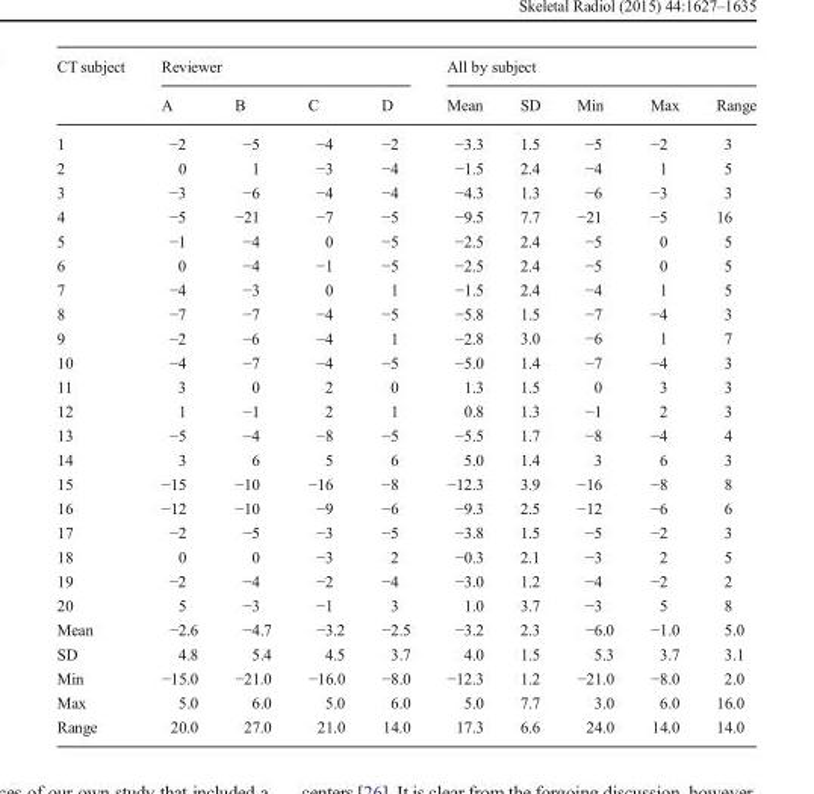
<table><thead><tr><td rowspan="2">CT subject</td><td colspan="4">Reviewer</td><td colspan="5">All by subject</td></tr><tr><td>A</td><td>B</td><td>C</td><td>D</td><td>Mean</td><td>SD</td><td>Min</td><td>Max</td><td>Range</td></tr></thead><tbody><tr><td>1</td><td>−2</td><td>−5</td><td>−4</td><td>−2</td><td>−3.3</td><td>1.5</td><td>−5</td><td>−2</td><td>3</td></tr><tr><td>2</td><td>0</td><td>1</td><td>−3</td><td>−4</td><td>−1.5</td><td>2.4</td><td>−4</td><td>1</td><td>5</td></tr><tr><td>3</td><td>−3</td><td>−6</td><td>−4</td><td>−4</td><td>−4.3</td><td>1.3</td><td>−6</td><td>−3</td><td>3</td></tr><tr><td>4</td><td>−5</td><td>−21</td><td>−7</td><td>−5</td><td>−9.5</td><td>7.7</td><td>−21</td><td>−5</td><td>16</td></tr><tr><td>5</td><td>−1</td><td>−4</td><td>0</td><td>−5</td><td>−2.5</td><td>2.4</td><td>−5</td><td>0</td><td>5</td></tr><tr><td>6</td><td>0</td><td>−4</td><td>−1</td><td>−5</td><td>−2.5</td><td>2.4</td><td>−5</td><td>0</td><td>5</td></tr><tr><td>7</td><td>−4</td><td>−3</td><td>0</td><td>1</td><td>−1.5</td><td>2.4</td><td>−4</td><td>1</td><td>5</td></tr><tr><td>8</td><td>−7</td><td>−7</td><td>−4</td><td>−5</td><td>−5.8</td><td>1.5</td><td>−7</td><td>−4</td><td>3</td></tr><tr><td>9</td><td>−2</td><td>−6</td><td>−4</td><td>1</td><td>−2.8</td><td>3.0</td><td>−6</td><td>1</td><td>7</td></tr><tr><td>10</td><td>−4</td><td>−7</td><td>−4</td><td>−5</td><td>−5.0</td><td>1.4</td><td>−7</td><td>−4</td><td>3</td></tr><tr><td>11</td><td>3</td><td>0</td><td>2</td><td>0</td><td>1.3</td><td>1.5</td><td>0</td><td>3</td><td>3</td></tr><tr><td>12</td><td>1</td><td>−1</td><td>2</td><td>1</td><td>0.8</td><td>1.3</td><td>−1</td><td>2</td><td>3</td></tr><tr><td>13</td><td>−5</td><td>−4</td><td>−8</td><td>−5</td><td>−5.5</td><td>1.7</td><td>−8</td><td>−4</td><td>4</td></tr><tr><td>14</td><td>3</td><td>6</td><td>5</td><td>6</td><td>5.0</td><td>1.4</td><td>3</td><td>6</td><td>3</td></tr><tr><td>15</td><td>−15</td><td>−10</td><td>−16</td><td>−8</td><td>−12.3</td><td>3.9</td><td>−16</td><td>−8</td><td>8</td></tr><tr><td>16</td><td>−12</td><td>−10</td><td>−9</td><td>−6</td><td>−9.3</td><td>2.5</td><td>−12</td><td>−6</td><td>6</td></tr><tr><td>17</td><td>−2</td><td>−5</td><td>−3</td><td>−5</td><td>−3.8</td><td>1.5</td><td>−5</td><td>−2</td><td>3</td></tr><tr><td>18</td><td>0</td><td>0</td><td>−3</td><td>2</td><td>−0.3</td><td>2.1</td><td>−3</td><td>2</td><td>5</td></tr><tr><td>19</td><td>−2</td><td>−4</td><td>−2</td><td>−4</td><td>−3.0</td><td>1.2</td><td>−4</td><td>−2</td><td>2</td></tr><tr><td>20</td><td>5</td><td>−3</td><td>−1</td><td>3</td><td>1.0</td><td>3.7</td><td>−3</td><td>5</td><td>8</td></tr><tr><td>Mean</td><td>−2.6</td><td>−4.7</td><td>−3.2</td><td>−2.5</td><td>−3.2</td><td>2.3</td><td>−6.0</td><td>−1.0</td><td>5.0</td></tr><tr><td>SD</td><td>4.8</td><td>5.4</td><td>4.5</td><td>3.7</td><td>4.0</td><td>1.5</td><td>5.3</td><td>3.7</td><td>3.1</td></tr><tr><td>Min</td><td>−15.0</td><td>−21.0</td><td>−16.0</td><td>−8.0</td><td>−12.3</td><td>1.2</td><td>−21.0</td><td>−8.0</td><td>2.0</td></tr><tr><td>Max</td><td>5.0</td><td>6.0</td><td>5.0</td><td>6.0</td><td>5.0</td><td>7.7</td><td>3.0</td><td>6.0</td><td>16.0</td></tr><tr><td>Range</td><td>20.0</td><td>27.0</td><td>21.0</td><td>14.0</td><td>17.3</td><td>6.6</td><td>24.0</td><td>14.0</td><td>14.0</td></tr></tbody></table>